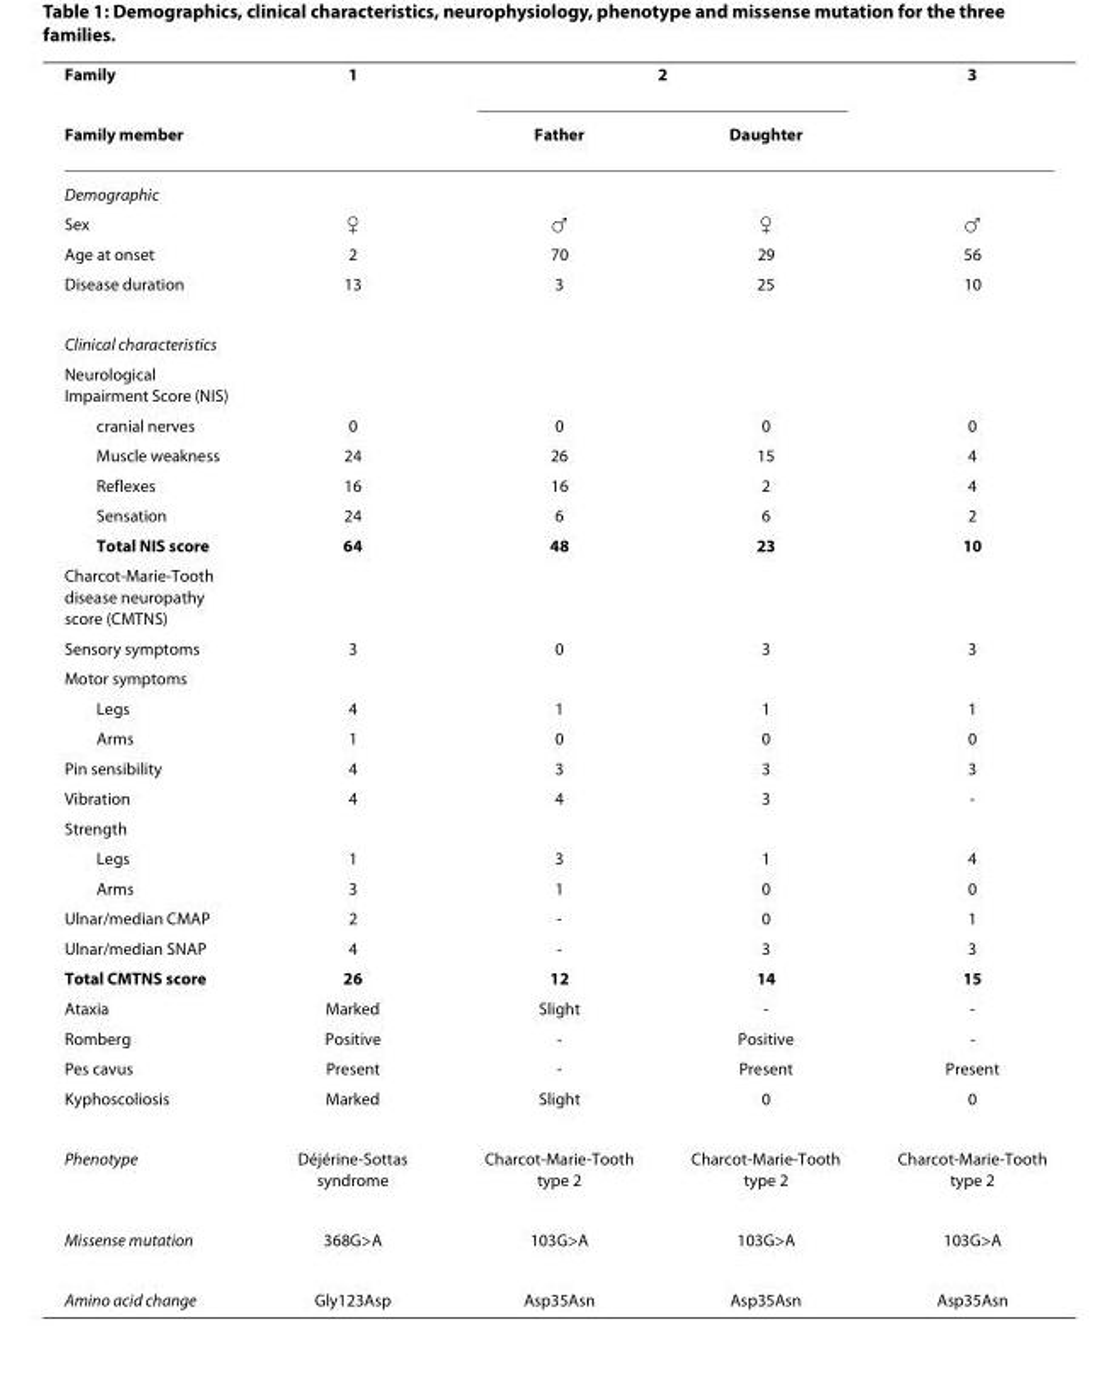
<table><thead><tr><td rowspan="2">Family Family member</td><td rowspan="2">1</td><td colspan="2">2</td><td rowspan="2">3</td></tr><tr><td>Father</td><td>Daughter</td></tr></thead><tbody><tr><td colspan="5">Demographic</td></tr><tr><td>Sex</td><td>♀</td><td>♂</td><td>♀</td><td>♂</td></tr><tr><td>Age at onset</td><td>2</td><td>70</td><td>29</td><td>56</td></tr><tr><td>Disease duration</td><td>13</td><td>3</td><td>25</td><td>10</td></tr><tr><td colspan="5">Clinical characteristics</td></tr><tr><td colspan="5">Neurological Impairment Score (NIS)</td></tr><tr><td>cranial nerves</td><td>0</td><td>0</td><td>0</td><td>0</td></tr><tr><td>Muscle weakness</td><td>24</td><td>26</td><td>15</td><td>4</td></tr><tr><td>Reflexes</td><td>16</td><td>16</td><td>2</td><td>4</td></tr><tr><td>Sensation</td><td>24</td><td>6</td><td>6</td><td>2</td></tr><tr><td>Total NIS score</td><td>64</td><td>48</td><td>23</td><td>10</td></tr><tr><td colspan="5">Charcot-Marie-Tooth disease neuropathy score (CMTNS)</td></tr><tr><td>Sensory symptoms</td><td>3</td><td>0</td><td>3</td><td>3</td></tr><tr><td colspan="5">Motor symptoms</td></tr><tr><td>Legs</td><td>4</td><td>1</td><td>1</td><td>1</td></tr><tr><td>Arms</td><td>1</td><td>0</td><td>0</td><td>0</td></tr><tr><td>Pin sensibility</td><td>4</td><td>3</td><td>3</td><td>3</td></tr><tr><td>Vibration</td><td>4</td><td>4</td><td>3</td><td>-</td></tr><tr><td colspan="5">Strength</td></tr><tr><td>Legs</td><td>1</td><td>3</td><td>1</td><td>4</td></tr><tr><td>Arms</td><td>3</td><td>1</td><td>0</td><td>0</td></tr><tr><td>Ulnar/median CMAP</td><td>2</td><td>-</td><td>0</td><td>1</td></tr><tr><td>Ulnar/median SNAP</td><td>4</td><td>-</td><td>3</td><td>3</td></tr><tr><td>Total CMTNS score</td><td>26</td><td>12</td><td>14</td><td>15</td></tr><tr><td>Ataxia</td><td>Marked</td><td>Slight</td><td>-</td><td>-</td></tr><tr><td>Romberg</td><td>Positive</td><td>-</td><td>Positive</td><td>-</td></tr><tr><td>Pes cavus</td><td>Present</td><td>-</td><td>Present</td><td>Present</td></tr><tr><td>Kyphoscoliosis</td><td>Marked</td><td>Slight</td><td>0</td><td>0</td></tr><tr><td>Phenotype</td><td>Déjérine-Sottas syndrome</td><td>Charcot-Marie-Tooth type 2</td><td>Charcot-Marie-Tooth type 2</td><td>Charcot-Marie-Tooth type 2</td></tr><tr><td>Missense mutation</td><td>368G&gt;A</td><td>103G&gt;A</td><td>103G&gt;A</td><td>103G&gt;A</td></tr><tr><td>Amino acid change</td><td>Gly123Asp</td><td>Asp35Asn</td><td>Asp35Asn</td><td>Asp35Asn</td></tr></tbody></table>